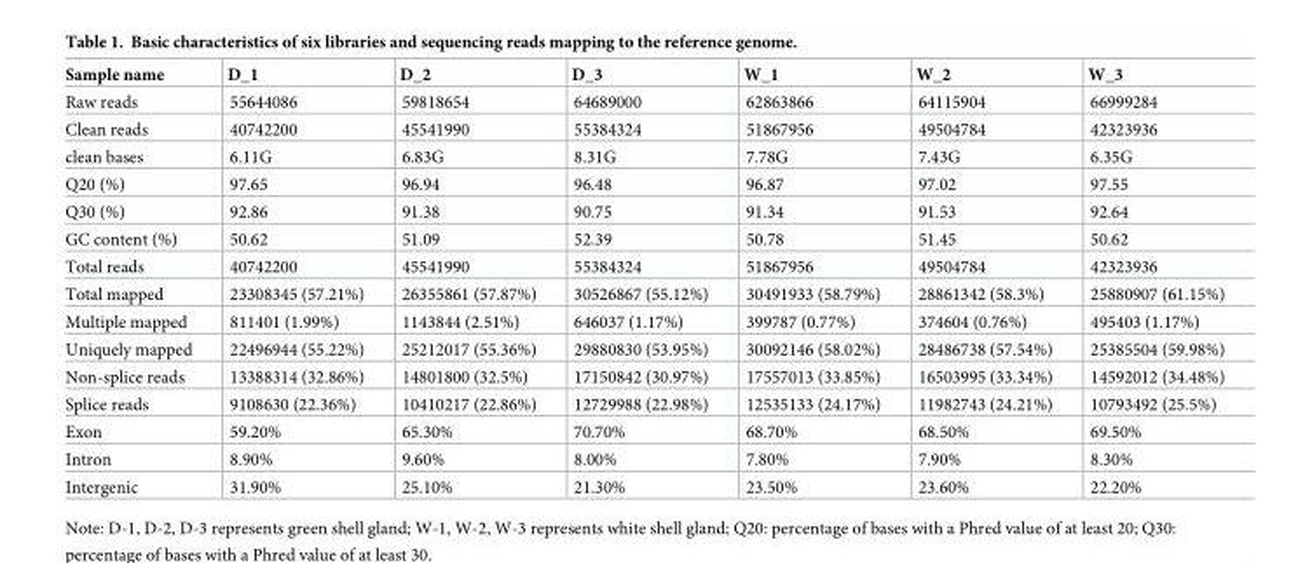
<table><thead><tr><td>Sample name</td><td>D_1</td><td>D_2</td><td>D_3</td><td>W_1</td><td>W_2</td><td>W_3</td></tr></thead><tbody><tr><td>Raw reads</td><td>55644086</td><td>59818654</td><td>64689000</td><td>62863866</td><td>64115904</td><td>66999284</td></tr><tr><td>Clean reads</td><td>40742200</td><td>45541990</td><td>55384324</td><td>51867956</td><td>49504784</td><td>42323936</td></tr><tr><td>clean bases</td><td>6.11G</td><td>6.83G</td><td>8.31G</td><td>7.78G</td><td>7.43G</td><td>6.35G</td></tr><tr><td>Q20 (%)</td><td>97.65</td><td>96.94</td><td>96.48</td><td>96.87</td><td>97.02</td><td>97.55</td></tr><tr><td>Q30 (%)</td><td>92.86</td><td>91.38</td><td>90.75</td><td>91.34</td><td>91.53</td><td>92.64</td></tr><tr><td>GC content (%)</td><td>50.62</td><td>51.09</td><td>52.39</td><td>50.78</td><td>51.45</td><td>50.62</td></tr><tr><td>Total reads</td><td>40742200</td><td>45541990</td><td>55384324</td><td>51867956</td><td>49504784</td><td>42323936</td></tr><tr><td>Total mapped</td><td>23308345 (57.21%)</td><td>26355861 (57.87%)</td><td>30526867 (55.12%)</td><td>30491933 (58.79%)</td><td>28861342 (58.3%)</td><td>25880907 (61.15%)</td></tr><tr><td>Multiple mapped</td><td>811401 (1.99%)</td><td>1143844 (2.51%)</td><td>646037 (1.17%)</td><td>399787 (0.77%)</td><td>374604 (0.76%)</td><td>495403 (1.17%)</td></tr><tr><td>Uniquely mapped</td><td>22496944 (55.22%)</td><td>25212017 (55.36%)</td><td>29880830 (53.95%)</td><td>30092146 (58.02%)</td><td>28486738 (57.54%)</td><td>25385504 (59.98%)</td></tr><tr><td>Non-splice reads</td><td>13388314 (32.86%)</td><td>14801800 (32.5%)</td><td>17150842 (30.97%)</td><td>17557013 (33.85%)</td><td>16503995 (33.34%)</td><td>14592012 (34.48%)</td></tr><tr><td>Splice reads</td><td>9108630 (22.36%)</td><td>10410217 (22.86%)</td><td>12729988 (22.98%)</td><td>12535133 (24.17%)</td><td>11982743 (24.21%)</td><td>10793492 (25.5%)</td></tr><tr><td>Exon</td><td>59.20%</td><td>65.30%</td><td>70.70%</td><td>68.70%</td><td>68.50%</td><td>69.50%</td></tr><tr><td>Intron</td><td>8.90%</td><td>9.60%</td><td>8.00%</td><td>7.80%</td><td>7.90%</td><td>8.30%</td></tr><tr><td>Intergenic</td><td>31.90%</td><td>25.10%</td><td>21.30%</td><td>23.50%</td><td>23.60%</td><td>22.20%</td></tr></tbody></table>